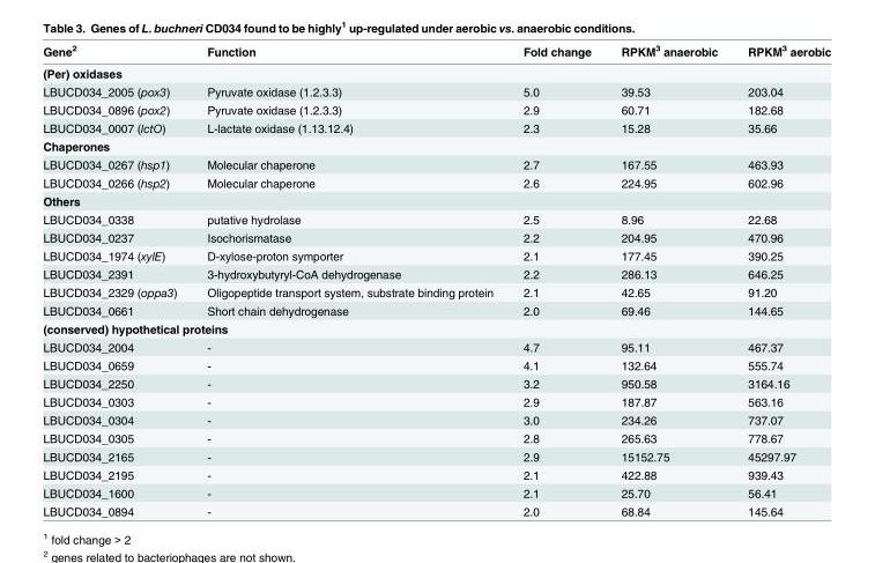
<table><thead><tr><td>Gene<sup>2</sup></td><td>Function</td><td>Fold change</td><td>RPKM<sup>3</sup> anaerobic</td><td>RPKM<sup>3</sup> aerobic</td></tr></thead><tbody><tr><td colspan="5">(Per) oxidases</td></tr><tr><td>LBUCD034_2005 (pox3)</td><td>Pyruvate oxidase (1.2.3.3)</td><td>5.0</td><td>39.53</td><td>203.04</td></tr><tr><td>LBUCD034_0896 (pox2)</td><td>Pyruvate oxidase (1.2.3.3)</td><td>2.9</td><td>60.71</td><td>182.68</td></tr><tr><td>LBUCD034_0007 (lctO)</td><td>L-lactate oxidase (1.13.12.4)</td><td>2.3</td><td>15.28</td><td>35.66</td></tr><tr><td colspan="5">Chaperones</td></tr><tr><td>LBUCD034_0267 (hsp1)</td><td>Molecular chaperone</td><td>2.7</td><td>167.55</td><td>463.93</td></tr><tr><td>LBUCD034_0266 (hsp2)</td><td>Molecular chaperone</td><td>2.6</td><td>224.95</td><td>602.96</td></tr><tr><td colspan="5">Others</td></tr><tr><td>LBUCD034_0338</td><td>putative hydrolase</td><td>2.5</td><td>8.96</td><td>22.68</td></tr><tr><td>LBUCD034_0237</td><td>Isochorismatase</td><td>2.2</td><td>204.95</td><td>470.96</td></tr><tr><td>LBUCD034_1974 (xylE)</td><td>D-xylose-proton symporter</td><td>2.1</td><td>177.45</td><td>390.25</td></tr><tr><td>LBUCD034_2391</td><td>3-hydroxybutyryl-CoA dehydrogenase</td><td>2.2</td><td>286.13</td><td>646.25</td></tr><tr><td>LBUCD034_2329 (oppa3)</td><td>Oligopeptide transport system, substrate binding protein</td><td>2.1</td><td>42.65</td><td>91.20</td></tr><tr><td>LBUCD034_0661</td><td>Short chain dehydrogenase</td><td>2.0</td><td>69.46</td><td>144.65</td></tr><tr><td colspan="5">(conserved) hypothetical proteins</td></tr><tr><td>LBUCD034_2004</td><td>-</td><td>4.7</td><td>95.11</td><td>467.37</td></tr><tr><td>LBUCD034_0659</td><td>-</td><td>4.1</td><td>132.64</td><td>555.74</td></tr><tr><td>LBUCD034_2250</td><td>-</td><td>3.2</td><td>950.58</td><td>3164.16</td></tr><tr><td>LBUCD034_0303</td><td>-</td><td>2.9</td><td>187.87</td><td>563.16</td></tr><tr><td>LBUCD034_0304</td><td>-</td><td>3.0</td><td>234.26</td><td>737.07</td></tr><tr><td>LBUCD034_0305</td><td>-</td><td>2.8</td><td>265.63</td><td>778.67</td></tr><tr><td>LBUCD034_2165</td><td>-</td><td>2.9</td><td>15152.75</td><td>45297.97</td></tr><tr><td>LBUCD034_2195</td><td>-</td><td>2.1</td><td>422.88</td><td>939.43</td></tr><tr><td>LBUCD034_1600</td><td>-</td><td>2.1</td><td>25.70</td><td>56.41</td></tr><tr><td>LBUCD034_0894</td><td>-</td><td>2.0</td><td>68.84</td><td>145.64</td></tr></tbody></table>